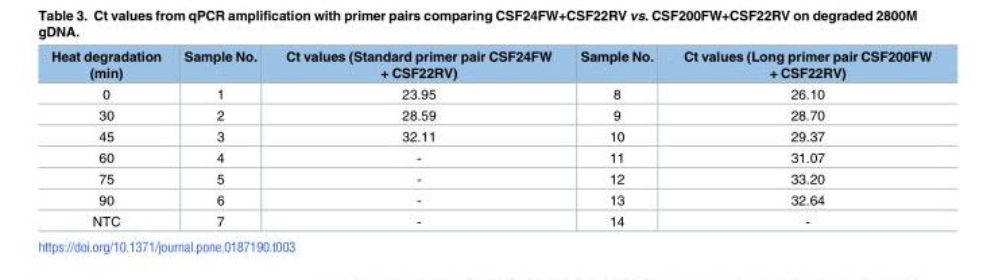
<table><thead><tr><td>Heat degradation (min)</td><td>Sample No.</td><td>Ct values (Standard primer pair CSF24FW + CSF22RV)</td><td>Sample No.</td><td>Ct values (Long primer pair CSF200FW + CSF22RV)</td></tr></thead><tbody><tr><td>0</td><td>1</td><td>23.95</td><td>8</td><td>26.10</td></tr><tr><td>30</td><td>2</td><td>28.59</td><td>9</td><td>28.70</td></tr><tr><td>45</td><td>3</td><td>32.11</td><td>10</td><td>29.37</td></tr><tr><td>60</td><td>4</td><td>-</td><td>11</td><td>31.07</td></tr><tr><td>75</td><td>5</td><td>-</td><td>12</td><td>33.20</td></tr><tr><td>90</td><td>6</td><td>-</td><td>13</td><td>32.64</td></tr><tr><td>NTC</td><td>7</td><td>-</td><td>14</td><td>-</td></tr></tbody></table>